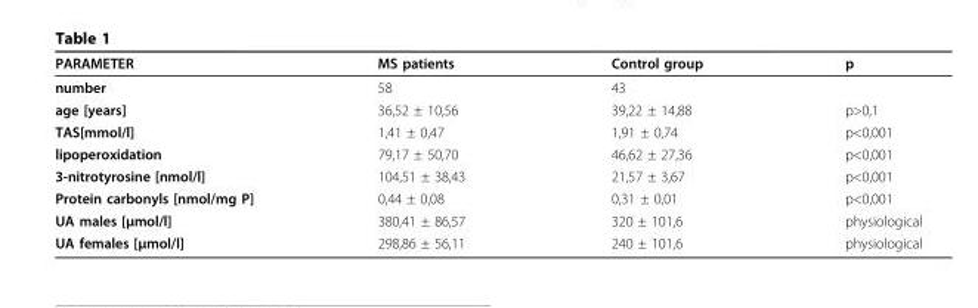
<table><thead><tr><td>PARAMETER</td><td>MS patients</td><td>Control group</td><td>p</td></tr></thead><tbody><tr><td>number</td><td>58</td><td>43</td><td></td></tr><tr><td>age [years]</td><td>36,52 ± 10,56</td><td>39,22 ± 14,88</td><td>p&gt;0,1</td></tr><tr><td>TAS[mmol/l]</td><td>1,41 ± 0,47</td><td>1,91 ± 0,74</td><td>p&lt;0,001</td></tr><tr><td>lipoperoxidation</td><td>79,17 ± 50,70</td><td>46,62 ± 27,36</td><td>p&lt;0,001</td></tr><tr><td>3-nitrotyrosine [nmol/l]</td><td>104,51 ± 38,43</td><td>21,57 ± 3,67</td><td>p&lt;0,001</td></tr><tr><td>Protein carbonyls [nmol/mg P]</td><td>0,44 ± 0,08</td><td>0,31 ± 0,01</td><td>p&lt;0,001</td></tr><tr><td>UA males [µmol/l]</td><td>380,41 ± 86,57</td><td>320 ± 101,6</td><td>physiological</td></tr><tr><td>UA females [µmol/l]</td><td>298,86 ± 56,11</td><td>240 ± 101,6</td><td>physiological</td></tr></tbody></table>